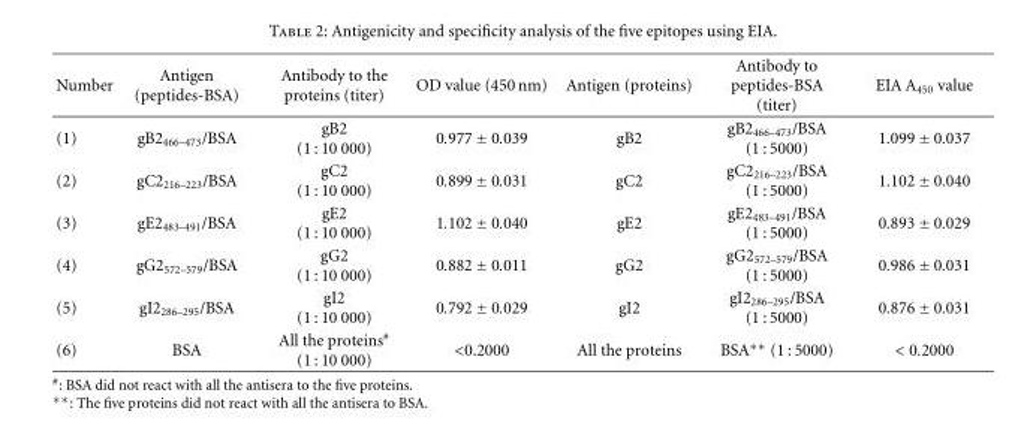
<table><thead><tr><td>Number</td><td>Antigen (peptides-BSA)</td><td>Antibody to the proteins (titer)</td><td>OD value (450 nm)</td><td>Antigen (proteins)</td><td>Antibody to peptides-BSA (titer)</td><td>EIA A<sub>450</sub> value</td></tr></thead><tbody><tr><td>(1)</td><td>gB2<sub>466–473</sub>/BSA</td><td>gB2 (1 : 10 000)</td><td>0.977 ± 0.039</td><td>gB2</td><td>gB2<sub>466–473</sub>/BSA (1 : 5000)</td><td>1.099 ± 0.037</td></tr><tr><td>(2)</td><td>gC2<sub>216–223</sub>/BSA</td><td>gC2 (1 : 10 000)</td><td>0.899 ± 0.031</td><td>gC2</td><td>gC2<sub>216–223</sub>/BSA (1 : 5000)</td><td>1.102 ± 0.040</td></tr><tr><td>(3)</td><td>gE2<sub>483–491</sub>/BSA</td><td>gE2 (1 : 10 000)</td><td>1.102 ± 0.040</td><td>gE2</td><td>gE2<sub>483–491</sub>/BSA (1 : 5000)</td><td>0.893 ± 0.029</td></tr><tr><td>(4)</td><td>gG2<sub>572–579</sub>/BSA</td><td>gG2 (1 : 10 000)</td><td>0.882 ± 0.011</td><td>gG2</td><td>gG2<sub>572–579</sub>/BSA (1 : 5000)</td><td>0.986 ± 0.031</td></tr><tr><td>(5)</td><td>gI2<sub>286–295</sub>/BSA</td><td>gI2 (1 : 10 000)</td><td>0.792 ± 0.029</td><td>gI2</td><td>gI2<sub>286–295</sub>/BSA (1 : 5000)</td><td>0.876 ± 0.031</td></tr><tr><td>(6)</td><td>BSA</td><td>All the proteins<sup>#</sup> (1 : 10 000)</td><td>&lt;0.2000</td><td>All the proteins</td><td>BSA∗∗ (1 : 5000)</td><td>&lt; 0.2000</td></tr></tbody></table>